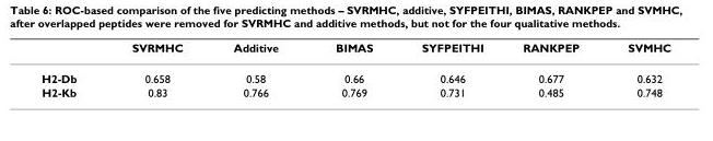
<table><thead><tr><td></td><td>SVRMHC</td><td>Additive</td><td>BIMAS</td><td>SYFPEITHI</td><td>RANKPEP</td><td>SVMHC</td></tr></thead><tbody><tr><td>H2-Db</td><td>0.658</td><td>0.58</td><td>0.66</td><td>0.646</td><td>0.677</td><td>0.632</td></tr><tr><td>H2-Kb</td><td>0.83</td><td>0.766</td><td>0.769</td><td>0.731</td><td>0.485</td><td>0.748</td></tr></tbody></table>